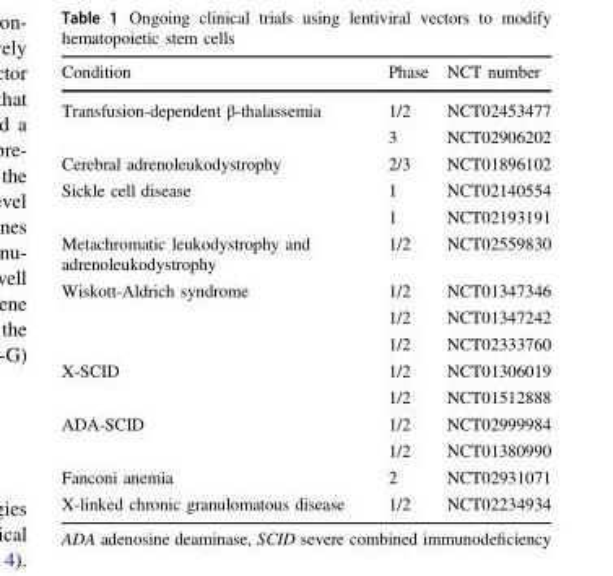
<table><thead><tr><td>Condition</td><td>Phase</td><td>NCT number</td></tr></thead><tbody><tr><td rowspan="2">Transfusion-dependent β-thalassemia</td><td>1/2</td><td>NCT02453477</td></tr><tr><td>3</td><td>NCT02906202</td></tr><tr><td>Cerebral adrenoleukodystrophy</td><td>2/3</td><td>NCT01896102</td></tr><tr><td rowspan="2">Sickle cell disease</td><td>1</td><td>NCT02140554</td></tr><tr><td>1</td><td>NCT02193191</td></tr><tr><td>Metachromatic leukodystrophy and adrenoleukodystrophy</td><td>1/2</td><td>NCT02559830</td></tr><tr><td rowspan="3">Wiskott-Aldrich syndrome</td><td>1/2</td><td>NCT01347346</td></tr><tr><td>1/2</td><td>NCT01347242</td></tr><tr><td>1/2</td><td>NCT02333760</td></tr><tr><td rowspan="2">X-SCID</td><td>1/2</td><td>NCT01306019</td></tr><tr><td>1/2</td><td>NCT01512888</td></tr><tr><td rowspan="2">ADA-SCID</td><td>1/2</td><td>NCT02999984</td></tr><tr><td>1/2</td><td>NCT01380990</td></tr><tr><td>Fanconi anemia</td><td>2</td><td>NCT02931071</td></tr><tr><td>X-linked chronic granulomatous disease</td><td>1/2</td><td>NCT02234934</td></tr></tbody></table>